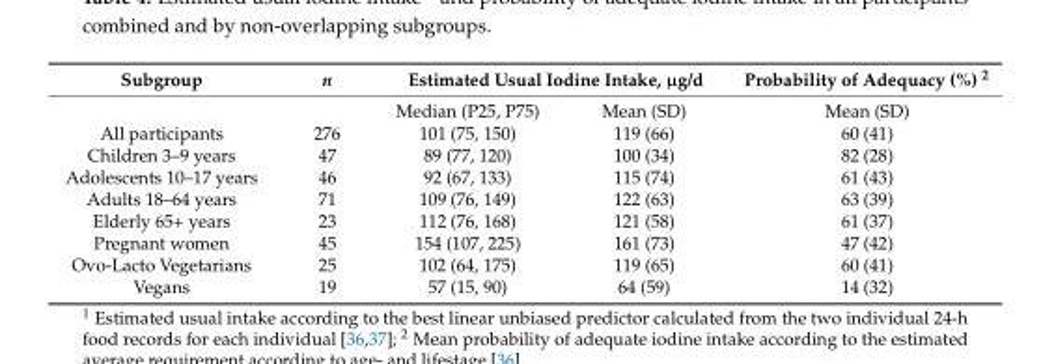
<table><thead><tr><td rowspan="2">Subgroup</td><td rowspan="2">n</td><td colspan="2">Estimated Usual Iodine Intake, µg/d</td><td rowspan="2">Probability of Adequacy (%) <sup>2</sup> Mean (SD)</td></tr><tr><td>Median (P25, P75)</td><td>Mean (SD)</td></tr></thead><tbody><tr><td>All participants</td><td>276</td><td>101 (75, 150)</td><td>119 (66)</td><td>60 (41)</td></tr><tr><td>Children 3–9 years</td><td>47</td><td>89 (77, 120)</td><td>100 (34)</td><td>82 (28)</td></tr><tr><td>Adolescents 10–17 years</td><td>46</td><td>92 (67, 133)</td><td>115 (74)</td><td>61 (43)</td></tr><tr><td>Adults 18–64 years</td><td>71</td><td>109 (76, 149)</td><td>122 (63)</td><td>63 (39)</td></tr><tr><td>Elderly 65+ years</td><td>23</td><td>112 (76, 168)</td><td>121 (58)</td><td>61 (37)</td></tr><tr><td>Pregnant women</td><td>45</td><td>154 (107, 225)</td><td>161 (73)</td><td>47 (42)</td></tr><tr><td>Ovo-Lacto Vegetarians</td><td>25</td><td>102 (64, 175)</td><td>119 (65)</td><td>60 (41)</td></tr><tr><td>Vegans</td><td>19</td><td>57 (15, 90)</td><td>64 (59)</td><td>14 (32)</td></tr></tbody></table>